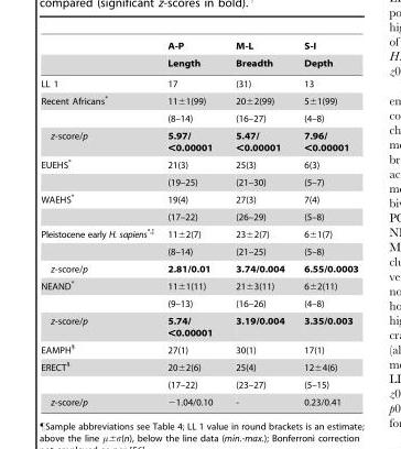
<table><thead><tr><td rowspan="2"></td><td rowspan="2">A-P Length</td><td rowspan="2">M-L Breadth</td><td rowspan="2">S-I Depth</td></tr><tr></tr></thead><tbody><tr><td>LL 1</td><td>17</td><td>(31)</td><td>13</td></tr><tr><td rowspan="2">Recent Africans*</td><td>11±1(99)</td><td>20±2(99)</td><td>5±1(99)</td></tr><tr><td>(8–14)</td><td>(16–27)</td><td>(4–8)</td></tr><tr><td>z-score/p</td><td>5.97/ &lt;0.00001</td><td>5.47/ &lt;0.00001</td><td>7.96/ &lt;0.00001</td></tr><tr><td rowspan="2">EUEHS*</td><td>21(3)</td><td>25(3)</td><td>6(3)</td></tr><tr><td>(19–25)</td><td>(21–30)</td><td>(5–7)</td></tr><tr><td rowspan="2">WAEHS*</td><td>19(4)</td><td>27(3)</td><td>7(4)</td></tr><tr><td>(17–22)</td><td>(26–29)</td><td>(5–8)</td></tr><tr><td rowspan="2">Pleistocene early H. sapiens*<sup>,</sup>‡</td><td>11±2(7)</td><td>23±2(7)</td><td>6±1(7)</td></tr><tr><td>(8–14)</td><td>(21–25)</td><td>(5–8)</td></tr><tr><td>z-score/p</td><td>2.81/0.01</td><td>3.74/0.004</td><td>6.55/0.0003</td></tr><tr><td rowspan="2">NEAND*</td><td>11±1(11)</td><td>21±3(11)</td><td>6±2(11)</td></tr><tr><td>(9–13)</td><td>(16–26)</td><td>(4–8)</td></tr><tr><td>z-score/p</td><td>5.74/ &lt;0.00001</td><td>3.19/0.004</td><td>3.35/0.003</td></tr><tr><td>EAMPH§</td><td>27(1)</td><td>30(1)</td><td>17(1)</td></tr><tr><td rowspan="2">ERECT§</td><td>20±2(6)</td><td>25(4)</td><td>12±4(6)</td></tr><tr><td>(17–22)</td><td>(23–27)</td><td>(5–15)</td></tr><tr><td>z-score/p</td><td>−1.04/0.10</td><td>-</td><td>0.23/0.41</td></tr></tbody></table>